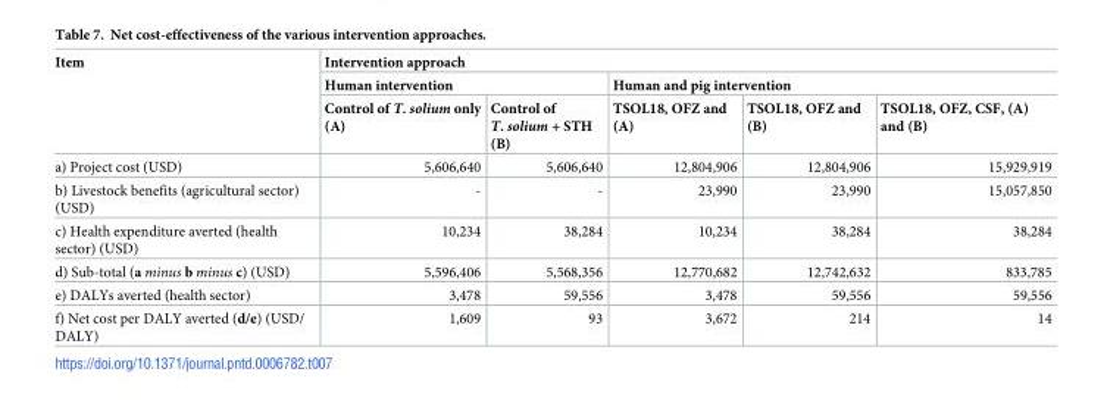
<table><thead><tr><td rowspan="3">Item</td><td colspan="5">Intervention approach</td></tr><tr><td colspan="2">Human intervention</td><td colspan="3">Human and pig intervention</td></tr><tr><td>Control of T. solium only (A)</td><td>Control of T. solium + STH (B)</td><td>TSOL18, OFZ and (A)</td><td>TSOL18, OFZ and (B)</td><td>TSOL18, OFZ, CSF, (A) and (B)</td></tr></thead><tbody><tr><td>a) Project cost (USD)</td><td>5,606,640</td><td>5,606,640</td><td>12,804,906</td><td>12,804,906</td><td>15,929,919</td></tr><tr><td>b) Livestock benefits (agricultural sector) (USD)</td><td>-</td><td>-</td><td>23,990</td><td>23,990</td><td>15,057,850</td></tr><tr><td>c) Health expenditure averted (health sector) (USD)</td><td>10,234</td><td>38,284</td><td>10,234</td><td>38,284</td><td>38,284</td></tr><tr><td>d) Sub-total (a minus b minus c) (USD)</td><td>5,596,406</td><td>5,568,356</td><td>12,770,682</td><td>12,742,632</td><td>833,785</td></tr><tr><td>e) DALYs averted (health sector)</td><td>3,478</td><td>59,556</td><td>3,478</td><td>59,556</td><td>59,556</td></tr><tr><td>f) Net cost per DALY averted (d/e) (USD/ DALY)</td><td>1,609</td><td>93</td><td>3,672</td><td>214</td><td>14</td></tr></tbody></table>